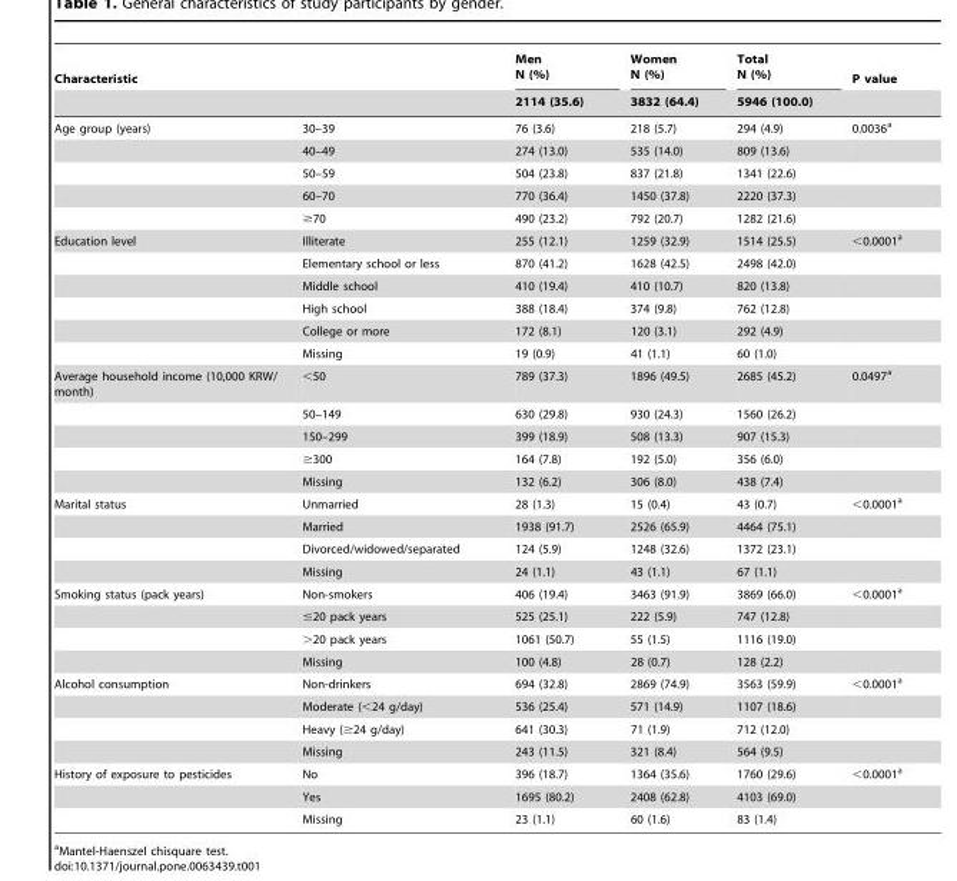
<table><thead><tr><td colspan="2">Characteristic</td><td rowspan="2">Men N (%) 2114 (35.6)</td><td rowspan="2">Women N (%) 3832 (64.4)</td><td rowspan="2">Total N (%) 5946 (100.0)</td><td rowspan="2">P value</td></tr><tr><td></td><td></td></tr></thead><tbody><tr><td rowspan="5">Age group (years)</td><td>30–39</td><td>76 (3.6)</td><td>218 (5.7)</td><td>294 (4.9)</td><td>0.0036<sup>a</sup></td></tr><tr><td>40–49</td><td>274 (13.0)</td><td>535 (14.0)</td><td>809 (13.6)</td><td></td></tr><tr><td>50–59</td><td>504 (23.8)</td><td>837 (21.8)</td><td>1341 (22.6)</td><td></td></tr><tr><td>60–70</td><td>770 (36.4)</td><td>1450 (37.8)</td><td>2220 (37.3)</td><td></td></tr><tr><td>≥70</td><td>490 (23.2)</td><td>792 (20.7)</td><td>1282 (21.6)</td><td></td></tr><tr><td rowspan="6">Education level</td><td>Illiterate</td><td>255 (12.1)</td><td>1259 (32.9)</td><td>1514 (25.5)</td><td>&lt;0.0001<sup>a</sup></td></tr><tr><td>Elementary school or less</td><td>870 (41.2)</td><td>1628 (42.5)</td><td>2498 (42.0)</td><td></td></tr><tr><td>Middle school</td><td>410 (19.4)</td><td>410 (10.7)</td><td>820 (13.8)</td><td></td></tr><tr><td>High school</td><td>388 (18.4)</td><td>374 (9.8)</td><td>762 (12.8)</td><td></td></tr><tr><td>College or more</td><td>172 (8.1)</td><td>120 (3.1)</td><td>292 (4.9)</td><td></td></tr><tr><td>Missing</td><td>19 (0.9)</td><td>41 (1.1)</td><td>60 (1.0)</td><td></td></tr><tr><td rowspan="5">Average household income (10,000 KRW/ month)</td><td>&lt;50</td><td>789 (37.3)</td><td>1896 (49.5)</td><td>2685 (45.2)</td><td>0.0497<sup>a</sup></td></tr><tr><td>50–149</td><td>630 (29.8)</td><td>930 (24.3)</td><td>1560 (26.2)</td><td></td></tr><tr><td>150–299</td><td>399 (18.9)</td><td>508 (13.3)</td><td>907 (15.3)</td><td></td></tr><tr><td>≥300</td><td>164 (7.8)</td><td>192 (5.0)</td><td>356 (6.0)</td><td></td></tr><tr><td>Missing</td><td>132 (6.2)</td><td>306 (8.0)</td><td>438 (7.4)</td><td></td></tr><tr><td rowspan="4">Marital status</td><td>Unmarried</td><td>28 (1.3)</td><td>15 (0.4)</td><td>43 (0.7)</td><td>&lt;0.0001<sup>a</sup></td></tr><tr><td>Married</td><td>1938 (91.7)</td><td>2526 (65.9)</td><td>4464 (75.1)</td><td></td></tr><tr><td>Divorced/widowed/separated</td><td>124 (5.9)</td><td>1248 (32.6)</td><td>1372 (23.1)</td><td></td></tr><tr><td>Missing</td><td>24 (1.1)</td><td>43 (1.1)</td><td>67 (1.1)</td><td></td></tr><tr><td rowspan="4">Smoking status (pack years)</td><td>Non-smokers</td><td>406 (19.4)</td><td>3463 (91.9)</td><td>3869 (66.0)</td><td>&lt;0.0001<sup>a</sup></td></tr><tr><td>≤20 pack years</td><td>525 (25.1)</td><td>222 (5.9)</td><td>747 (12.8)</td><td></td></tr><tr><td>&gt;20 pack years</td><td>1061 (50.7)</td><td>55 (1.5)</td><td>1116 (19.0)</td><td></td></tr><tr><td>Missing</td><td>100 (4.8)</td><td>28 (0.7)</td><td>128 (2.2)</td><td></td></tr><tr><td rowspan="4">Alcohol consumption</td><td>Non-drinkers</td><td>694 (32.8)</td><td>2869 (74.9)</td><td>3563 (59.9)</td><td>&lt;0.0001<sup>a</sup></td></tr><tr><td>Moderate (&lt;24 g/day)</td><td>536 (25.4)</td><td>571 (14.9)</td><td>1107 (18.6)</td><td></td></tr><tr><td>Heavy (≥24 g/day)</td><td>641 (30.3)</td><td>71 (1.9)</td><td>712 (12.0)</td><td></td></tr><tr><td>Missing</td><td>243 (11.5)</td><td>321 (8.4)</td><td>564 (9.5)</td><td></td></tr><tr><td rowspan="3">History of exposure to pesticides</td><td>No</td><td>396 (18.7)</td><td>1364 (35.6)</td><td>1760 (29.6)</td><td>&lt;0.0001<sup>a</sup></td></tr><tr><td>Yes</td><td>1695 (80.2)</td><td>2408 (62.8)</td><td>4103 (69.0)</td><td></td></tr><tr><td>Missing</td><td>23 (1.1)</td><td>60 (1.6)</td><td>83 (1.4)</td><td></td></tr></tbody></table>